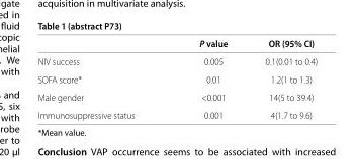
<table><thead><tr><td></td><td>P value</td><td>OR (95% CI)</td></tr></thead><tbody><tr><td>NIV success</td><td>0.005</td><td>0.1(0.01 to 0.4)</td></tr><tr><td>SOFA score*</td><td>0.01</td><td>1.2(1 to 1.3)</td></tr><tr><td>Male gender</td><td>&lt;0.001</td><td>14(5 to 39.4)</td></tr><tr><td>Immunosuppressive status</td><td>0.001</td><td>4(1.7 to 9.6)</td></tr></tbody></table>